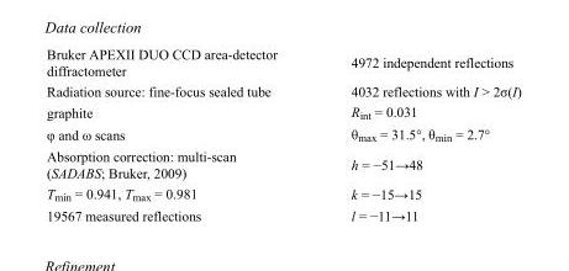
<table><tbody><tr><td>Bruker APEXII DUO CCD area-detector diffractometer</td><td>4972 independent reflections</td></tr><tr><td>Radiation source: fine-focus sealed tube</td><td>4032 reflections with I &gt; 2σ(I)</td></tr><tr><td>graphite</td><td>R<sub>int</sub> = 0.031</td></tr><tr><td>φ and ω scans</td><td>θ<sub>max</sub> = 31.5°, θ<sub>min</sub> = 2.7°</td></tr><tr><td>Absorption correction: multi-scan (SADABS; Bruker, 2009)</td><td>h = −51→48</td></tr><tr><td>T<sub>min</sub> = 0.941, T<sub>max</sub> = 0.981</td><td>k = −15→15</td></tr><tr><td>19567 measured reflections</td><td>l = −11→11</td></tr></tbody></table>